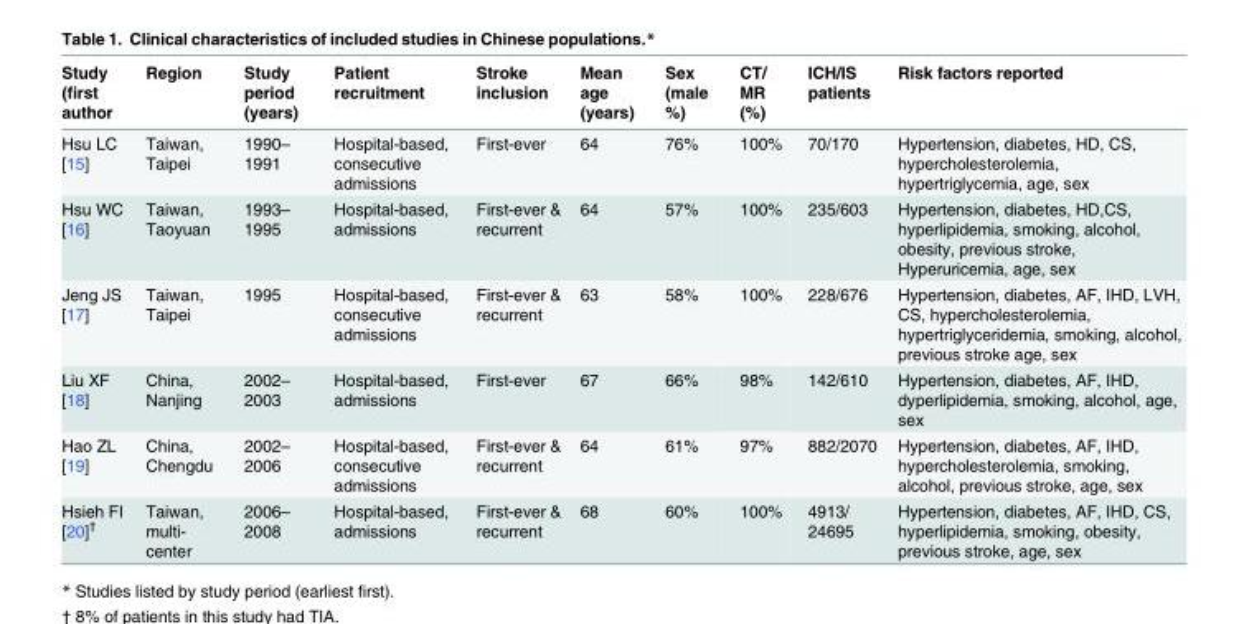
<table><thead><tr><td>Study (first author</td><td>Region</td><td>Study period (years)</td><td>Patient recruitment</td><td>Stroke inclusion</td><td>Mean age (years)</td><td>Sex (male %)</td><td>CT/ MR (%)</td><td>ICH/IS patients</td><td>Risk factors reported</td></tr></thead><tbody><tr><td>Hsu LC [15]</td><td>Taiwan, Taipei</td><td>1990– 1991</td><td>Hospital-based, consecutive admissions</td><td>First-ever</td><td>64</td><td>76%</td><td>100%</td><td>70/170</td><td>Hypertension, diabetes, HD, CS, hypercholesterolemia, hypertriglycemia, age, sex</td></tr><tr><td>Hsu WC [16]</td><td>Taiwan, Taoyuan</td><td>1993– 1995</td><td>Hospital-based, admissions</td><td>First-ever &amp; recurrent</td><td>64</td><td>57%</td><td>100%</td><td>235/603</td><td>Hypertension, diabetes, HD,CS, hyperlipidemia, smoking, alcohol, obesity, previous stroke, Hyperuricemia, age, sex</td></tr><tr><td>Jeng JS [17]</td><td>Taiwan, Taipei</td><td>1995</td><td>Hospital-based, consecutive admissions</td><td>First-ever &amp; recurrent</td><td>63</td><td>58%</td><td>100%</td><td>228/676</td><td>Hypertension, diabetes, AF, IHD, LVH, CS, hypercholesterolemia, hypertriglyceridemia, smoking, alcohol, previous stroke age, sex</td></tr><tr><td>Liu XF [18]</td><td>China, Nanjing</td><td>2002– 2003</td><td>Hospital-based, admissions</td><td>First-ever</td><td>67</td><td>66%</td><td>98%</td><td>142/610</td><td>Hypertension, diabetes, AF, IHD, dyperlipidemia, smoking, alcohol, age, sex</td></tr><tr><td>Hao ZL [19]</td><td>China, Chengdu</td><td>2002– 2006</td><td>Hospital-based, consecutive admissions</td><td>First-ever &amp; recurrent</td><td>64</td><td>61%</td><td>97%</td><td>882/2070</td><td>Hypertension, diabetes, AF, IHD, hypercholesterolemia, smoking, alcohol, previous stroke, age, sex</td></tr><tr><td>Hsieh FI [20]<sup>†</sup></td><td>Taiwan, multi- center</td><td>2006– 2008</td><td>Hospital-based, admissions</td><td>First-ever &amp; recurrent</td><td>68</td><td>60%</td><td>100%</td><td>4913/ 24695</td><td>Hypertension, diabetes, AF, IHD, CS, hyperlipidemia, smoking, obesity, previous stroke, age, sex</td></tr></tbody></table>